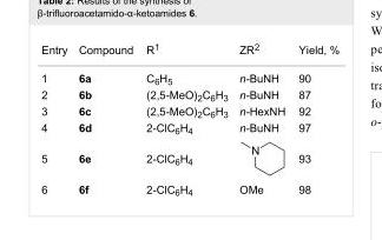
<table><tbody><tr><td>Entry</td><td>Compound</td><td>R<sup>1</sup></td><td>ZR<sup>2</sup></td><td>Yield, %</td></tr><tr><td>1</td><td>6a</td><td>C<sub>6</sub>H<sub>5</sub></td><td>n-BuNH</td><td>90</td></tr><tr><td>2</td><td>6b</td><td>(2,5-MeO)<sub>2</sub>C<sub>6</sub>H<sub>3</sub></td><td>n-BuNH</td><td>87</td></tr><tr><td>3</td><td>6c</td><td>(2,5-MeO)<sub>2</sub>C<sub>6</sub>H<sub>3</sub></td><td>n-HexNH</td><td>92</td></tr><tr><td>4</td><td>6d</td><td>2-ClC<sub>6</sub>H<sub>4</sub></td><td>n-BuNH</td><td>97</td></tr><tr><td>5</td><td>6e</td><td>2-ClC<sub>6</sub>H<sub>4</sub></td><td></td><td>93</td></tr><tr><td>6</td><td>6f</td><td>2-ClC<sub>6</sub>H<sub>4</sub></td><td>OMe</td><td>98</td></tr></tbody></table>